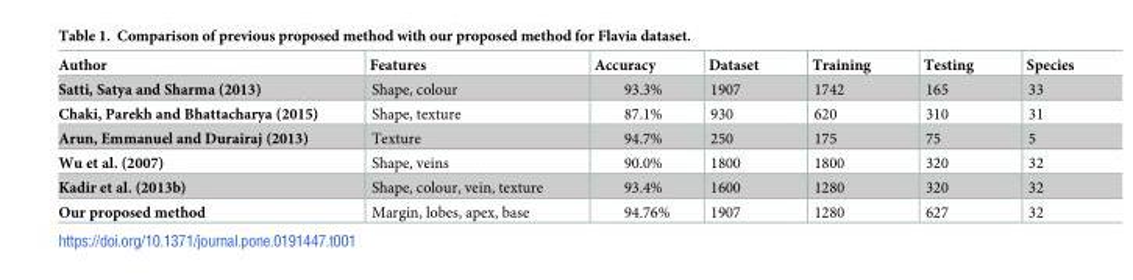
<table><thead><tr><td>Author</td><td>Features</td><td>Accuracy</td><td>Dataset</td><td>Training</td><td>Testing</td><td>Species</td></tr></thead><tbody><tr><td>Satti, Satya and Sharma (2013)</td><td>Shape, colour</td><td>93.3%</td><td>1907</td><td>1742</td><td>165</td><td>33</td></tr><tr><td>Chaki, Parekh and Bhattacharya (2015)</td><td>Shape, texture</td><td>87.1%</td><td>930</td><td>620</td><td>310</td><td>31</td></tr><tr><td>Arun, Emmanuel and Durairaj (2013)</td><td>Texture</td><td>94.7%</td><td>250</td><td>175</td><td>75</td><td>5</td></tr><tr><td>Wu et al. (2007)</td><td>Shape, veins</td><td>90.0%</td><td>1800</td><td>1800</td><td>320</td><td>32</td></tr><tr><td>Kadir et al. (2013b)</td><td>Shape, colour, vein, texture</td><td>93.4%</td><td>1600</td><td>1280</td><td>320</td><td>32</td></tr><tr><td>Our proposed method</td><td>Margin, lobes, apex, base</td><td>94.76%</td><td>1907</td><td>1280</td><td>627</td><td>32</td></tr></tbody></table>